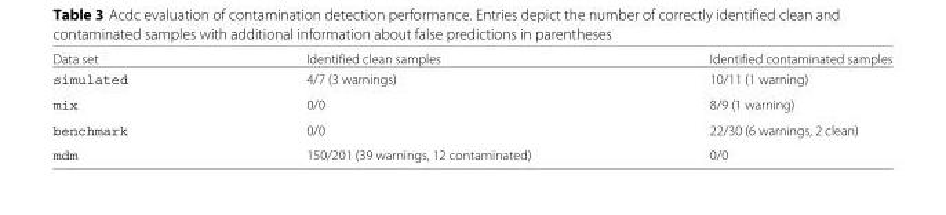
<table><thead><tr><td>Data set</td><td>Identified clean samples</td><td>Identified contaminated samples</td></tr></thead><tbody><tr><td>simulated</td><td>4/7 (3 warnings)</td><td>10/11 (1 warning)</td></tr><tr><td>mix</td><td>0/0</td><td>8/9 (1 warning)</td></tr><tr><td>benchmark</td><td>0/0</td><td>22/30 (6 warnings, 2 clean)</td></tr><tr><td>mdm</td><td>150/201 (39 warnings, 12 contaminated)</td><td>0/0</td></tr></tbody></table>